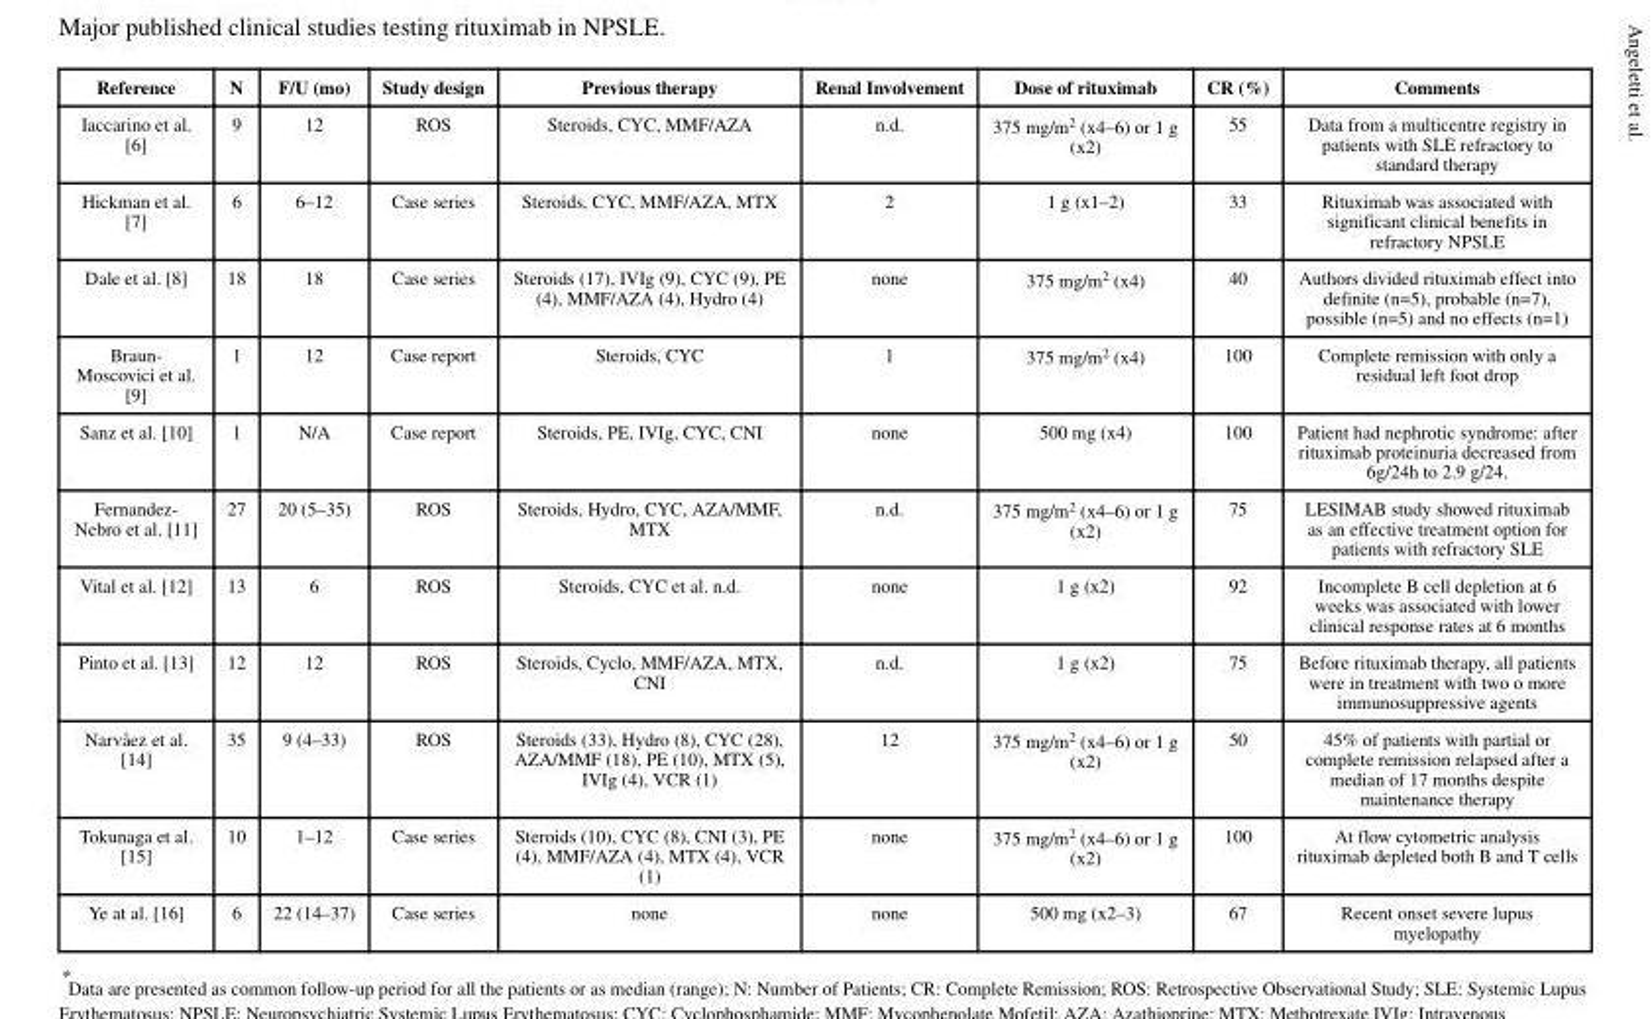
<table><thead><tr><td>Reference</td><td>N</td><td>F/U (mo)</td><td>Study design</td><td>Previous therapy</td><td>Renal Involvement</td><td>Dose of rituximab</td><td>CR (%)</td><td>Comments</td></tr></thead><tbody><tr><td>Iaccarino et al. [6]</td><td>9</td><td>12</td><td>ROS</td><td>Steroids, CYC, MMF/AZA</td><td>n.d.</td><td>375 mg/m<sup>2</sup> (x4–6) or 1 g (x2)</td><td>55</td><td>Data from a multicentre registry in patients with SLE refractory to standard therapy</td></tr><tr><td>Hickman et al. [7]</td><td>6</td><td>6–12</td><td>Case series</td><td>Steroids, CYC, MMF/AZA, MTX</td><td>2</td><td>1 g (x1–2)</td><td>33</td><td>Rituximab was associated with significant clinical benefits in refractory NPSLE</td></tr><tr><td>Dale et al. [8]</td><td>18</td><td>18</td><td>Case series</td><td>Steroids (17), IVIg (9), CYC (9), PE (4), MMF/AZA (4), Hydro (4)</td><td>none</td><td>375 mg/m<sup>2</sup> (x4)</td><td>40</td><td>Authors divided rituximab effect into definite (n=5), probable (n=7), possible (n=5) and no effects (n=1)</td></tr><tr><td>Braun- Moscovici et al. [9]</td><td>1</td><td>12</td><td>Case report</td><td>Steroids, CYC</td><td>1</td><td>375 mg/m<sup>2</sup> (x4)</td><td>100</td><td>Complete remission with only a residual left foot drop</td></tr><tr><td>Sanz et al. [10]</td><td>1</td><td>N/A</td><td>Case report</td><td>Steroids, PE, IVIg, CYC, CNI</td><td>none</td><td>500 mg (x4)</td><td>100</td><td>Patient had nephrotic syndrome: after rituximab proteinuria decreased from 6g/24h to 2.9 g/24.</td></tr><tr><td>Fernandez- Nebro et al. [11]</td><td>27</td><td>20 (5–35)</td><td>ROS</td><td>Steroids, Hydro, CYC, AZA/MMF, MTX</td><td>n.d.</td><td>375 mg/m<sup>2</sup> (x4–6) or 1 g (x2)</td><td>75</td><td>LESIMAB study showed rituximab as an effective treatment option for patients with refractory SLE</td></tr><tr><td>Vital et al. [12]</td><td>13</td><td>6</td><td>ROS</td><td>Steroids, CYC et al. n.d.</td><td>none</td><td>1 g (x2)</td><td>92</td><td>Incomplete B cell depletion at 6 weeks was associated with lower clinical response rates at 6 months</td></tr><tr><td>Pinto et al. [13]</td><td>12</td><td>12</td><td>ROS</td><td>Steroids, Cyclo, MMF/AZA, MTX, CNI</td><td>n.d.</td><td>1 g (x2)</td><td>75</td><td>Before rituximab therapy, all patients were in treatment with two o more immunosuppressive agents</td></tr><tr><td>Narvåez et al. [14]</td><td>35</td><td>9 (4–33)</td><td>ROS</td><td>Steroids (33), Hydro (8), CYC (28), AZA/MMF (18), PE (10), MTX (5), IVIg (4), VCR (1)</td><td>12</td><td>375 mg/m<sup>2</sup> (x4–6) or 1 g (x2)</td><td>50</td><td>45% of patients with partial or complete remission relapsed after a median of 17 months despite maintenance therapy</td></tr><tr><td>Tokunaga et al. [15]</td><td>10</td><td>1–12</td><td>Case series</td><td>Steroids (10), CYC (8), CNI (3), PE (4), MMF/AZA (4), MTX (4), VCR (1)</td><td>none</td><td>375 mg/m<sup>2</sup> (x4–6) or 1 g (x2)</td><td>100</td><td>At flow cytometric analysis rituximab depleted both B and T cells</td></tr><tr><td>Ye at al. [16]</td><td>6</td><td>22 (14–37)</td><td>Case series</td><td>none</td><td>none</td><td>500 mg (x2–3)</td><td>67</td><td>Recent onset severe lupus myelopathy</td></tr></tbody></table>